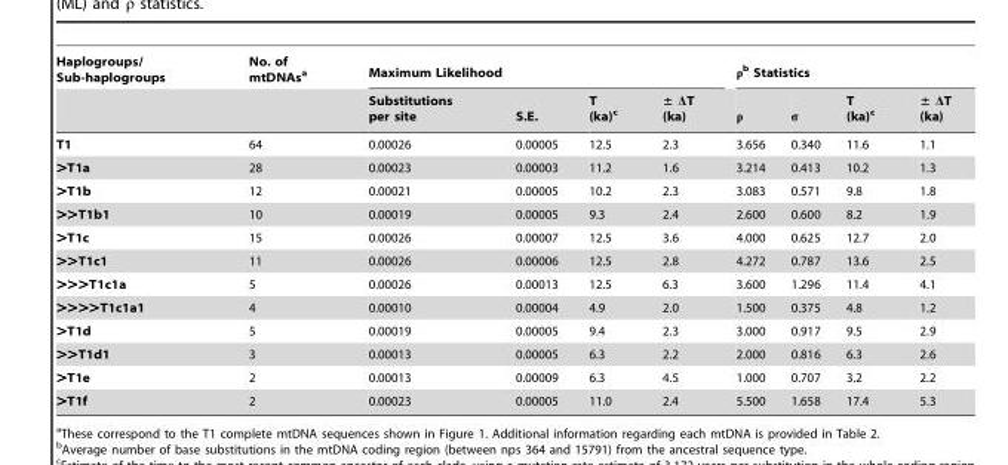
<table><thead><tr><td rowspan="2">Haplogroups/ Sub-haplogroups</td><td rowspan="2">No. of mtDNAs<sup>a</sup></td><td colspan="4">Maximum Likelihood</td><td colspan="4">ρ<sup>b</sup> Statistics</td></tr><tr><td>Substitutions per site</td><td>S.E.</td><td>T (ka)<sup>c</sup></td><td>± ΔT (ka)</td><td>ρ</td><td>σ</td><td>T (ka)<sup>c</sup></td><td>± ΔT (ka)</td></tr></thead><tbody><tr><td>T1</td><td>64</td><td>0.00026</td><td>0.00005</td><td>12.5</td><td>2.3</td><td>3.656</td><td>0.340</td><td>11.6</td><td>1.1</td></tr><tr><td>&gt;T1a</td><td>28</td><td>0.00023</td><td>0.00003</td><td>11.2</td><td>1.6</td><td>3.214</td><td>0.413</td><td>10.2</td><td>1.3</td></tr><tr><td>&gt;T1b</td><td>12</td><td>0.00021</td><td>0.00005</td><td>10.2</td><td>2.3</td><td>3.083</td><td>0.571</td><td>9.8</td><td>1.8</td></tr><tr><td>&gt;&gt;T1b1</td><td>10</td><td>0.00019</td><td>0.00005</td><td>9.3</td><td>2.4</td><td>2.600</td><td>0.600</td><td>8.2</td><td>1.9</td></tr><tr><td>&gt;T1c</td><td>15</td><td>0.00026</td><td>0.00007</td><td>12.5</td><td>3.6</td><td>4.000</td><td>0.625</td><td>12.7</td><td>2.0</td></tr><tr><td>&gt;&gt;T1c1</td><td>11</td><td>0.00026</td><td>0.00006</td><td>12.5</td><td>2.8</td><td>4.272</td><td>0.787</td><td>13.6</td><td>2.5</td></tr><tr><td>&gt;&gt;&gt;T1c1a</td><td>5</td><td>0.00026</td><td>0.00013</td><td>12.5</td><td>6.3</td><td>3.600</td><td>1.296</td><td>11.4</td><td>4.1</td></tr><tr><td>&gt;&gt;&gt;&gt;T1c1a1</td><td>4</td><td>0.00010</td><td>0.00004</td><td>4.9</td><td>2.0</td><td>1.500</td><td>0.375</td><td>4.8</td><td>1.2</td></tr><tr><td>&gt;T1d</td><td>5</td><td>0.00019</td><td>0.00005</td><td>9.4</td><td>2.3</td><td>3.000</td><td>0.917</td><td>9.5</td><td>2.9</td></tr><tr><td>&gt;&gt;T1d1</td><td>3</td><td>0.00013</td><td>0.00005</td><td>6.3</td><td>2.2</td><td>2.000</td><td>0.816</td><td>6.3</td><td>2.6</td></tr><tr><td>&gt;T1e</td><td>2</td><td>0.00013</td><td>0.00009</td><td>6.3</td><td>4.5</td><td>1.000</td><td>0.707</td><td>3.2</td><td>2.2</td></tr><tr><td>&gt;T1f</td><td>2</td><td>0.00023</td><td>0.00005</td><td>11.0</td><td>2.4</td><td>5.500</td><td>1.658</td><td>17.4</td><td>5.3</td></tr></tbody></table>